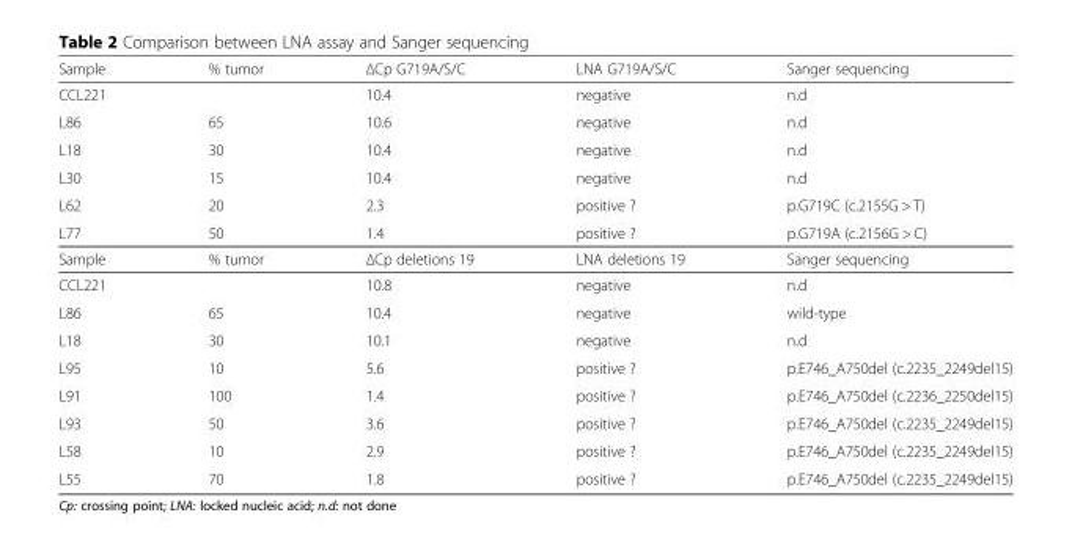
<table><thead><tr><td>Sample</td><td>% tumor</td><td>ΔCp G719A/S/C</td><td>LNA G719A/S/C</td><td>Sanger sequencing</td></tr></thead><tbody><tr><td>CCL221</td><td></td><td>10.4</td><td>negative</td><td>n.d</td></tr><tr><td>L86</td><td>65</td><td>10.6</td><td>negative</td><td>n.d</td></tr><tr><td>L18</td><td>30</td><td>10.4</td><td>negative</td><td>n.d</td></tr><tr><td>L30</td><td>15</td><td>10.4</td><td>negative</td><td>n.d</td></tr><tr><td>L62</td><td>20</td><td>2.3</td><td>positive ?</td><td>p.G719C (c.2155G &gt; T)</td></tr><tr><td>L77</td><td>50</td><td>1.4</td><td>positive ?</td><td>p.G719A (c.2156G &gt; C)</td></tr><tr><td>Sample</td><td>% tumor</td><td>ΔCp deletions 19</td><td>LNA deletions 19</td><td>Sanger sequencing</td></tr><tr><td>CCL221</td><td></td><td>10.8</td><td>negative</td><td>n.d</td></tr><tr><td>L86</td><td>65</td><td>10.4</td><td>negative</td><td>wild-type</td></tr><tr><td>L18</td><td>30</td><td>10.1</td><td>negative</td><td>n.d</td></tr><tr><td>L95</td><td>10</td><td>5.6</td><td>positive ?</td><td>p.E746_A750del (c.2235_2249del15)</td></tr><tr><td>L91</td><td>100</td><td>1.4</td><td>positive ?</td><td>p.E746_A750del (c.2236_2250del15)</td></tr><tr><td>L93</td><td>50</td><td>3.6</td><td>positive ?</td><td>p.E746_A750del (c.2235_2249del15)</td></tr><tr><td>L58</td><td>10</td><td>2.9</td><td>positive ?</td><td>p.E746_A750del (c.2235_2249del15)</td></tr><tr><td>L55</td><td>70</td><td>1.8</td><td>positive ?</td><td>p.E746_A750del (c.2235_2249del15)</td></tr></tbody></table>